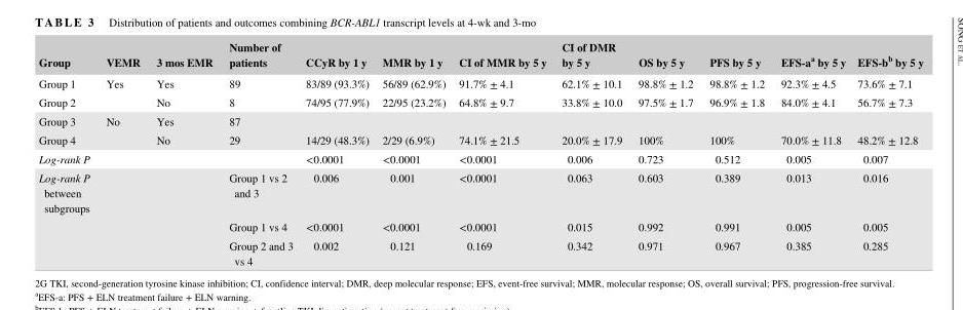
<table><thead><tr><td>Group</td><td>VEMR</td><td>3 mos EMR</td><td>Number of patients</td><td>CCyR by 1 y</td><td>MMR by 1 y</td><td>CI of MMR by 5 y</td><td>CI of DMR by 5 y</td><td>OS by 5 y</td><td>PFS by 5 y</td><td>EFS- a<sup>a</sup> by 5 y</td><td>EFS- b<sup>b</sup> by 5 y</td></tr></thead><tbody><tr><td>Group 1</td><td rowspan="2">Yes</td><td>Yes</td><td>89</td><td>83/89 (93.3%)</td><td>56/89 (62.9%)</td><td>91.7% ± 4.1</td><td>62.1% ± 10.1</td><td>98.8% ± 1.2</td><td>98.8% ± 1.2</td><td>92.3% ± 4.5</td><td>73.6% ± 7.1</td></tr><tr><td>Group 2</td><td>No</td><td>8</td><td>74/95 (77.9%)</td><td>22/95 (23.2%)</td><td>64.8% ± 9.7</td><td>33.8% ± 10.0</td><td>97.5% ± 1.7</td><td>96.9% ± 1.8</td><td>84.0% ± 4.1</td><td>56.7% ± 7.3</td></tr><tr><td>Group 3</td><td rowspan="2">No</td><td>Yes</td><td>87</td><td></td><td></td><td></td><td></td><td></td><td></td><td></td><td></td></tr><tr><td>Group 4</td><td>No</td><td>29</td><td>14/29 (48.3%)</td><td>2/29 (6.9%)</td><td>74.1% ± 21.5</td><td>20.0% ± 17.9</td><td>100%</td><td>100%</td><td>70.0% ± 11.8</td><td>48.2% ± 12.8</td></tr><tr><td>Log-rank P</td><td></td><td></td><td></td><td>&lt;0.0001</td><td>&lt;0.0001</td><td>&lt;0.0001</td><td>0.006</td><td>0.723</td><td>0.512</td><td>0.005</td><td>0.007</td></tr><tr><td rowspan="3">Log-rank P between subgroups</td><td></td><td></td><td>Group 1 vs 2 and 3</td><td>0.006</td><td>0.001</td><td>&lt;0.0001</td><td>0.063</td><td>0.603</td><td>0.389</td><td>0.013</td><td>0.016</td></tr><tr><td></td><td></td><td>Group 1 vs 4</td><td>&lt;0.0001</td><td>&lt;0.0001</td><td>&lt;0.0001</td><td>0.015</td><td>0.992</td><td>0.991</td><td>0.005</td><td>0.005</td></tr><tr><td></td><td></td><td>Group 2 and 3 vs 4</td><td>0.002</td><td>0.121</td><td>0.169</td><td>0.342</td><td>0.971</td><td>0.967</td><td>0.385</td><td>0.285</td></tr></tbody></table>